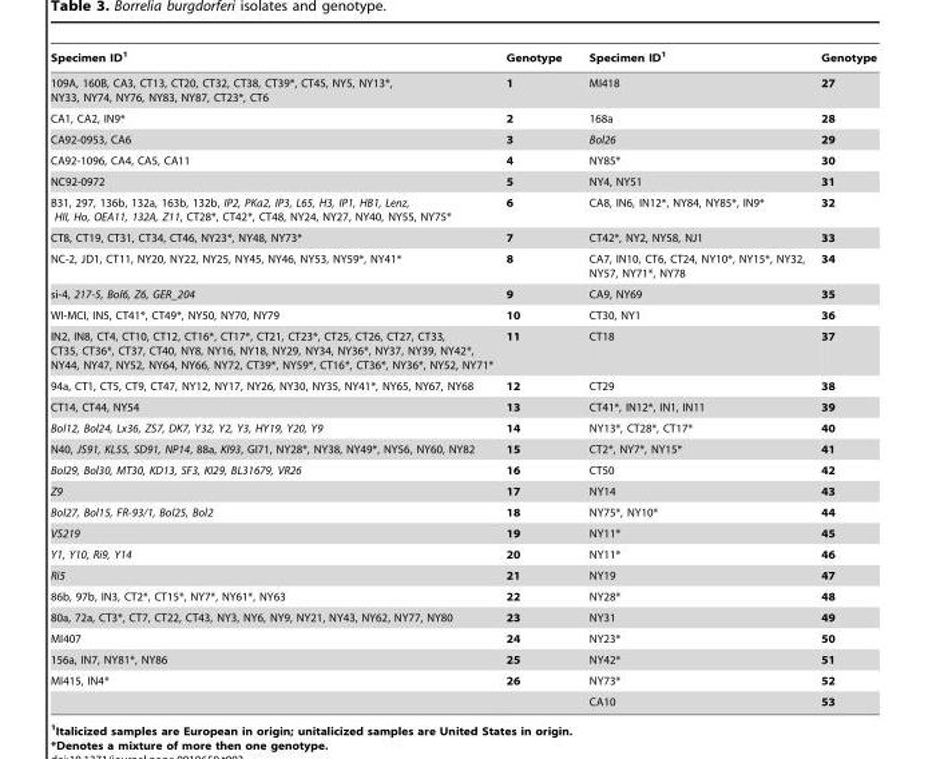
<table><thead><tr><td>Specimen ID<sup>1</sup></td><td>Genotype</td><td>Specimen ID<sup>1</sup></td><td>Genotype</td></tr></thead><tbody><tr><td>109A, 160B, CA3, CT13, CT20, CT32, CT38, CT39*, CT45, NY5, NY13*, NY33, NY74, NY76, NY83, NY87, CT23*, CT6</td><td>1</td><td>MI418</td><td>27</td></tr><tr><td>CA1, CA2, IN9*</td><td>2</td><td>168a</td><td>28</td></tr><tr><td>CA92-0953, CA6</td><td>3</td><td>Bol26</td><td>29</td></tr><tr><td>CA92-1096, CA4, CA5, CA11</td><td>4</td><td>NY85*</td><td>30</td></tr><tr><td>NC92-0972</td><td>5</td><td>NY4, NY51</td><td>31</td></tr><tr><td>B31, 297, 136b, 132a, 163b, 132b, IP2, PKa2, IP3, L65, H3, IP1, HB1, Lenz, HII, Ho, OEA11, 132A, Z11, CT28*, CT42*, CT48, NY24, NY27, NY40, NY55, NY75*</td><td>6</td><td>CA8, IN6, IN12*, NY84, NY85*, IN9*</td><td>32</td></tr><tr><td>CT8, CT19, CT31, CT34, CT46, NY23*, NY48, NY73*</td><td>7</td><td>CT42*, NY2, NY58, NJ1</td><td>33</td></tr><tr><td>NC-2, JD1, CT11, NY20, NY22, NY25, NY45, NY46, NY53, NY59*, NY41*</td><td>8</td><td>CA7, IN10, CT6, CT24, NY10*, NY15*, NY32, NY57, NY71*, NY78</td><td>34</td></tr><tr><td>si-4, 217-5, Bol6, Z6, GER_204</td><td>9</td><td>CA9, NY69</td><td>35</td></tr><tr><td>WI-MCI, IN5, CT41*, CT49*, NY50, NY70, NY79</td><td>10</td><td>CT30, NY1</td><td>36</td></tr><tr><td>IN2, IN8, CT4, CT10, CT12, CT16*, CT17*, CT21, CT23*, CT25, CT26, CT27, CT33, CT35, CT36*, CT37, CT40, NY8, NY16, NY18, NY29, NY34, NY36*, NY37, NY39, NY42*, NY44, NY47, NY52, NY64, NY66, NY72, CT39*, NY59*, CT16*, CT36*, NY36*, NY52, NY71*</td><td>11</td><td>CT18</td><td>37</td></tr><tr><td>94a, CT1, CT5, CT9, CT47, NY12, NY17, NY26, NY30, NY35, NY41*, NY65, NY67, NY68</td><td>12</td><td>CT29</td><td>38</td></tr><tr><td>CT14, CT44, NY54</td><td>13</td><td>CT41*, IN12*, IN1, IN11</td><td>39</td></tr><tr><td>Bol12, Bol24, Lx36, ZS7, DK7, Y32, Y2, Y3, HY19, Y20, Y9</td><td>14</td><td>NY13*, CT28*, CT17*</td><td>40</td></tr><tr><td>N40, JS91, KL55, SD91, NP14, 88a, KI93, GI71, NY28*, NY38, NY49*, NY56, NY60, NY82</td><td>15</td><td>CT2*, NY7*, NY15*</td><td>41</td></tr><tr><td>Bol29, Bol30, MT30, KD13, SF3, KI29, BL31679, VR26</td><td>16</td><td>CT50</td><td>42</td></tr><tr><td>Z9</td><td>17</td><td>NY14</td><td>43</td></tr><tr><td>Bol27, Bol15, FR-93/1, Bol25, Bol2</td><td>18</td><td>NY75*, NY10*</td><td>44</td></tr><tr><td>VS219</td><td>19</td><td>NY11*</td><td>45</td></tr><tr><td>Y1, Y10, Ri9, Y14</td><td>20</td><td>NY11*</td><td>46</td></tr><tr><td>Ri5</td><td>21</td><td>NY19</td><td>47</td></tr><tr><td>86b, 97b, IN3, CT2*, CT15*, NY7*, NY61*, NY63</td><td>22</td><td>NY28*</td><td>48</td></tr><tr><td>80a, 72a, CT3*, CT7, CT22, CT43, NY3, NY6, NY9, NY21, NY43, NY62, NY77, NY80</td><td>23</td><td>NY31</td><td>49</td></tr><tr><td>MI407</td><td>24</td><td>NY23*</td><td>50</td></tr><tr><td>156a, IN7, NY81*, NY86</td><td>25</td><td>NY42*</td><td>51</td></tr><tr><td rowspan="2">MI415, IN4*</td><td>26</td><td>NY73*</td><td>52</td></tr><tr><td></td><td>CA10</td><td>53</td></tr></tbody></table>